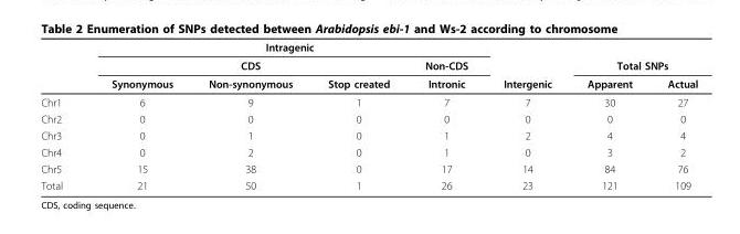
<table><thead><tr><td rowspan="3"></td><td colspan="4">Intragenic</td><td rowspan="3">Intergenic</td><td></td><td></td></tr><tr><td colspan="3">CDS</td><td rowspan="2">Non-CDS Intronic</td><td colspan="2">Total SNPs</td></tr><tr><td>Synonymous</td><td>Non-synonymous</td><td>Stop created</td><td>Apparent</td><td>Actual</td></tr></thead><tbody><tr><td>Chr1</td><td>6</td><td>9</td><td>1</td><td>7</td><td>7</td><td>30</td><td>27</td></tr><tr><td>Chr2</td><td>0</td><td>0</td><td>0</td><td>0</td><td>0</td><td>0</td><td>0</td></tr><tr><td>Chr3</td><td>0</td><td>1</td><td>0</td><td>1</td><td>2</td><td>4</td><td>4</td></tr><tr><td>Chr4</td><td>0</td><td>2</td><td>0</td><td>1</td><td>0</td><td>3</td><td>2</td></tr><tr><td>Chr5</td><td>15</td><td>38</td><td>0</td><td>17</td><td>14</td><td>84</td><td>76</td></tr><tr><td>Total</td><td>21</td><td>50</td><td>1</td><td>26</td><td>23</td><td>121</td><td>109</td></tr></tbody></table>